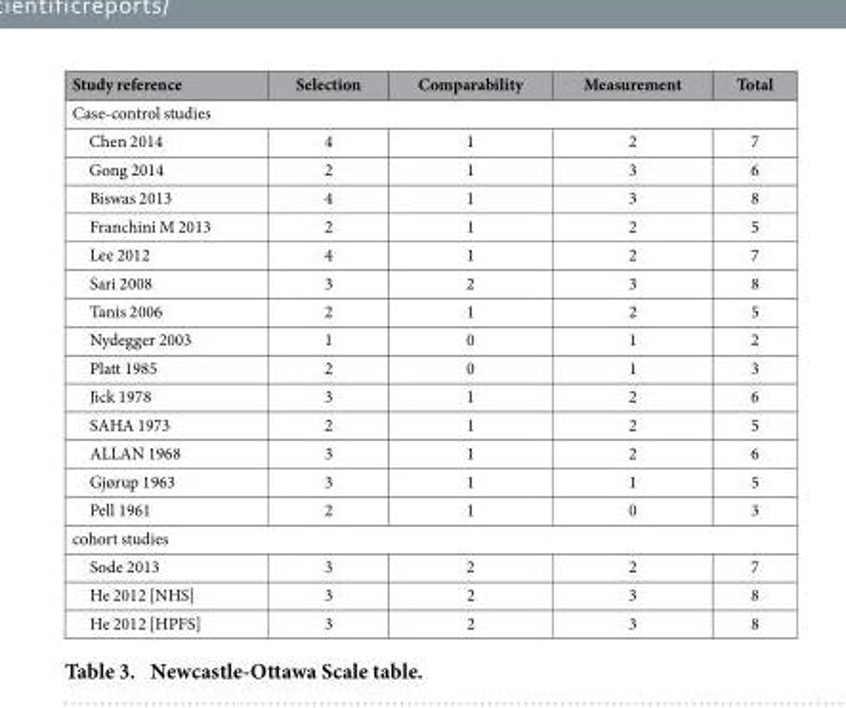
<table><thead><tr><td>Study reference</td><td>Selection</td><td>Comparability</td><td>Measurement</td><td>Total</td></tr></thead><tbody><tr><td colspan="5">Case-control studies</td></tr><tr><td>Chen 2014</td><td>4</td><td>1</td><td>2</td><td>7</td></tr><tr><td>Gong 2014</td><td>2</td><td>1</td><td>3</td><td>6</td></tr><tr><td>Biswas 2013</td><td>4</td><td>1</td><td>3</td><td>8</td></tr><tr><td>Franchini M 2013</td><td>2</td><td>1</td><td>2</td><td>5</td></tr><tr><td>Lee 2012</td><td>4</td><td>1</td><td>2</td><td>7</td></tr><tr><td>Sari 2008</td><td>3</td><td>2</td><td>3</td><td>8</td></tr><tr><td>Tanis 2006</td><td>2</td><td>1</td><td>2</td><td>5</td></tr><tr><td>Nydegger 2003</td><td>1</td><td>0</td><td>1</td><td>2</td></tr><tr><td>Platt 1985</td><td>2</td><td>0</td><td>1</td><td>3</td></tr><tr><td>Jick 1978</td><td>3</td><td>1</td><td>2</td><td>6</td></tr><tr><td>SAHA 1973</td><td>2</td><td>1</td><td>2</td><td>5</td></tr><tr><td>ALLAN 1968</td><td>3</td><td>1</td><td>2</td><td>6</td></tr><tr><td>Gjørup 1963</td><td>3</td><td>1</td><td>1</td><td>5</td></tr><tr><td>Pell 1961</td><td>2</td><td>1</td><td>0</td><td>3</td></tr><tr><td colspan="5">cohort studies</td></tr><tr><td>Sode 2013</td><td>3</td><td>2</td><td>2</td><td>7</td></tr><tr><td>He 2012 [NHS]</td><td>3</td><td>2</td><td>3</td><td>8</td></tr><tr><td>He 2012 [HPFS]</td><td>3</td><td>2</td><td>3</td><td>8</td></tr></tbody></table>